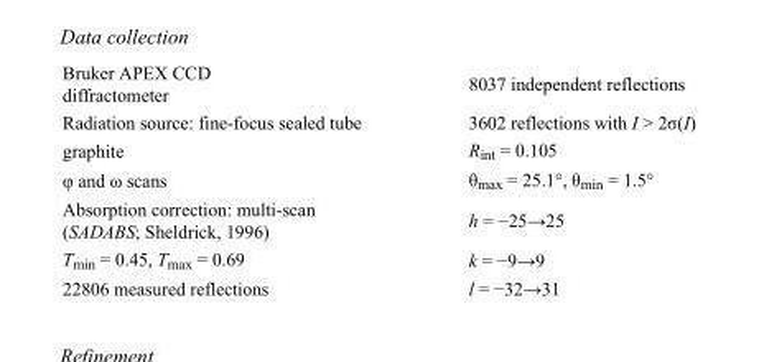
<table><tbody><tr><td>Bruker APEX CCD diffractometer</td><td>8037 independent reflections</td></tr><tr><td>Radiation source: fine-focus sealed tube</td><td>3602 reflections with I &gt; 2σ(I)</td></tr><tr><td>graphite</td><td>R<sub>int</sub> = 0.105</td></tr><tr><td>φ and ω scans</td><td>θ<sub>max</sub> = 25.1°, θ<sub>min</sub> = 1.5°</td></tr><tr><td>Absorption correction: multi-scan (SADABS; Sheldrick, 1996)</td><td>h = −25→25</td></tr><tr><td>T<sub>min</sub> = 0.45, T<sub>max</sub> = 0.69</td><td>k = −9→9</td></tr><tr><td>22806 measured reflections</td><td>l = −32→31</td></tr></tbody></table>